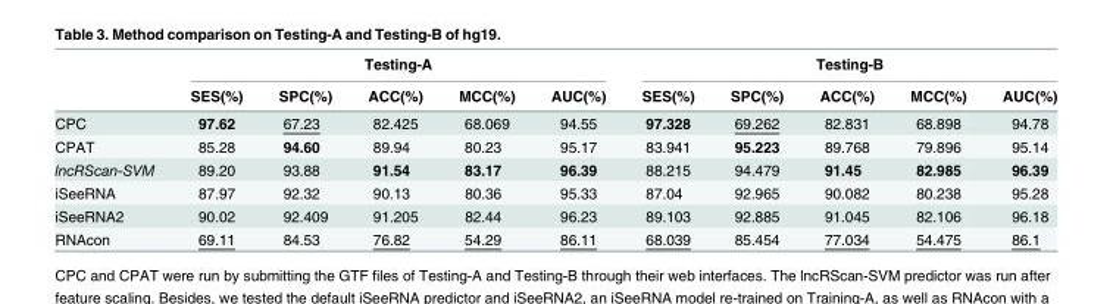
<table><thead><tr><td rowspan="2"></td><td colspan="5">Testing-A</td><td colspan="5">Testing-B</td></tr><tr><td>SES(%)</td><td>SPC(%)</td><td>ACC(%)</td><td>MCC(%)</td><td>AUC(%)</td><td>SES(%)</td><td>SPC(%)</td><td>ACC(%)</td><td>MCC(%)</td><td>AUC(%)</td></tr></thead><tbody><tr><td>CPC</td><td>97.62</td><td>67.23</td><td>82.425</td><td>68.069</td><td>94.55</td><td>97.328</td><td>69.262</td><td>82.831</td><td>68.898</td><td>94.78</td></tr><tr><td>CPAT</td><td>85.28</td><td>94.60</td><td>89.94</td><td>80.23</td><td>95.17</td><td>83.941</td><td>95.223</td><td>89.768</td><td>79.896</td><td>95.14</td></tr><tr><td>lncRScan-SVM</td><td>89.20</td><td>93.88</td><td>91.54</td><td>83.17</td><td>96.39</td><td>88.215</td><td>94.479</td><td>91.45</td><td>82.985</td><td>96.39</td></tr><tr><td>iSeeRNA</td><td>87.97</td><td>92.32</td><td>90.13</td><td>80.36</td><td>95.33</td><td>87.04</td><td>92.965</td><td>90.082</td><td>80.238</td><td>95.28</td></tr><tr><td>iSeeRNA2</td><td>90.02</td><td>92.409</td><td>91.205</td><td>82.44</td><td>96.23</td><td>89.103</td><td>92.885</td><td>91.045</td><td>82.106</td><td>96.18</td></tr><tr><td>RNAcon</td><td>69.11</td><td>84.53</td><td>76.82</td><td>54.29</td><td>86.11</td><td>68.039</td><td>85.454</td><td>77.034</td><td>54.475</td><td>86.1</td></tr></tbody></table>